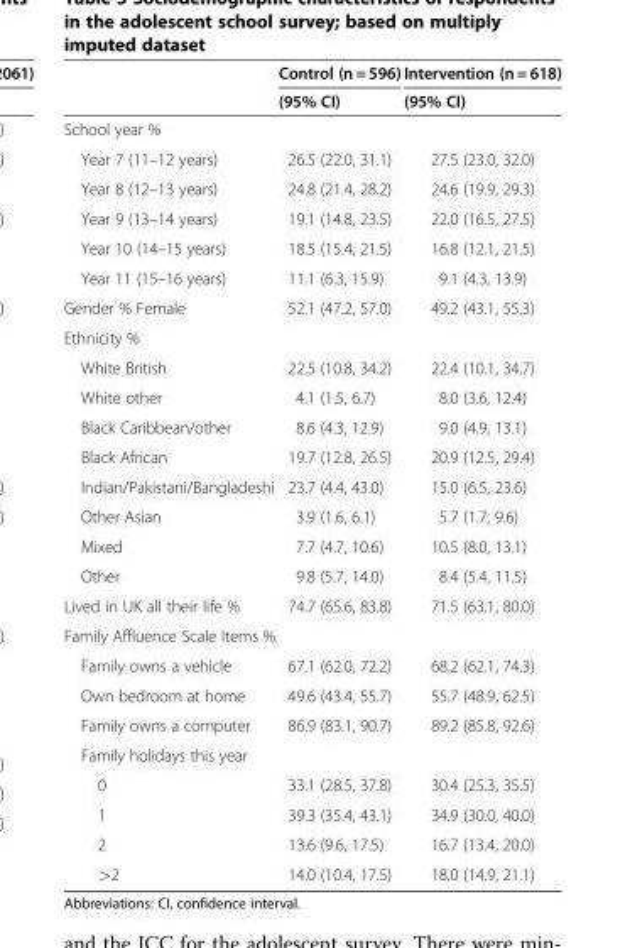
<table><thead><tr><td rowspan="2"></td><td rowspan="2">Control (n = 596) (95% CI)</td><td rowspan="2">Intervention (n = 618) (95% CI)</td></tr><tr></tr></thead><tbody><tr><td colspan="3">School year %</td></tr><tr><td>Year 7 (11–12 years)</td><td>26.5 (22.0, 31.1)</td><td>27.5 (23.0, 32.0)</td></tr><tr><td>Year 8 (12–13 years)</td><td>24.8 (21.4, 28.2)</td><td>24.6 (19.9, 29.3)</td></tr><tr><td>Year 9 (13–14 years)</td><td>19.1 (14.8, 23.5)</td><td>22.0 (16.5, 27.5)</td></tr><tr><td>Year 10 (14–15 years)</td><td>18.5 (15.4, 21.5)</td><td>16.8 (12.1, 21.5)</td></tr><tr><td>Year 11 (15–16 years)</td><td>11.1 (6.3, 15.9)</td><td>9.1 (4.3, 13.9)</td></tr><tr><td>Gender % Female</td><td>52.1 (47.2, 57.0)</td><td>49.2 (43.1, 55.3)</td></tr><tr><td colspan="3">Ethnicity %</td></tr><tr><td>White British</td><td>22.5 (10.8, 34.2)</td><td>22.4 (10.1, 34.7)</td></tr><tr><td>White other</td><td>4.1 (1.5, 6.7)</td><td>8.0 (3.6, 12.4)</td></tr><tr><td>Black Caribbean/other</td><td>8.6 (4.3, 12.9)</td><td>9.0 (4.9, 13.1)</td></tr><tr><td>Black African</td><td>19.7 (12.8, 26.5)</td><td>20.9 (12.5, 29.4)</td></tr><tr><td>Indian/Pakistani/Bangladeshi</td><td>23.7 (4.4, 43.0)</td><td>15.0 (6.5, 23.6)</td></tr><tr><td>Other Asian</td><td>3.9 (1.6, 6.1)</td><td>5.7 (1.7, 9.6)</td></tr><tr><td>Mixed</td><td>7.7 (4.7, 10.6)</td><td>10.5 (8.0, 13.1)</td></tr><tr><td>Other</td><td>9.8 (5.7, 14.0)</td><td>8.4 (5.4, 11.5)</td></tr><tr><td>Lived in UK all their life %</td><td>74.7 (65.6, 83.8)</td><td>71.5 (63.1, 80.0)</td></tr><tr><td colspan="3">Family Affluence Scale Items %</td></tr><tr><td>Family owns a vehicle</td><td>67.1 (62.0, 72.2)</td><td>68.2 (62.1, 74.3)</td></tr><tr><td>Own bedroom at home</td><td>49.6 (43.4, 55.7)</td><td>55.7 (48.9, 62.5)</td></tr><tr><td>Family owns a computer</td><td>86.9 (83.1, 90.7)</td><td>89.2 (85.8, 92.6)</td></tr><tr><td colspan="3">Family holidays this year</td></tr><tr><td>0</td><td>33.1 (28.5, 37.8)</td><td>30.4 (25.3, 35.5)</td></tr><tr><td>1</td><td>39.3 (35.4, 43.1)</td><td>34.9 (30.0, 40.0)</td></tr><tr><td>2</td><td>13.6 (9.6, 17.5)</td><td>16.7 (13.4, 20.0)</td></tr><tr><td>&gt;2</td><td>14.0 (10.4, 17.5)</td><td>18.0 (14.9, 21.1)</td></tr></tbody></table>